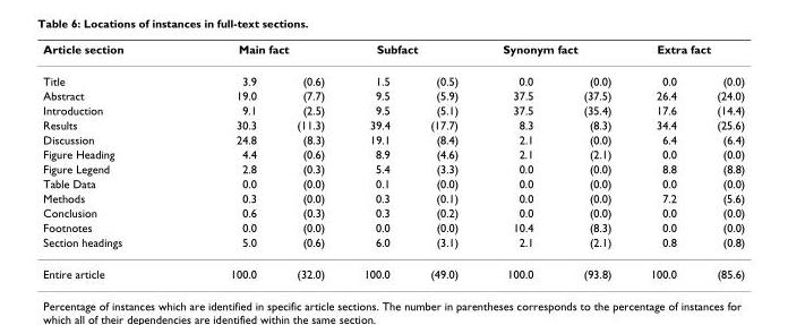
<table><thead><tr><td rowspan="2">Article section Title</td><td colspan="2">Main fact</td><td colspan="2">Subfact</td><td colspan="2">Synonym fact</td><td colspan="2">Extra fact</td></tr><tr><td>3.9</td><td>(0.6)</td><td>1.5</td><td>(0.5)</td><td>0.0</td><td>(0.0)</td><td>0.0</td><td>(0.0)</td></tr></thead><tbody><tr><td>Abstract</td><td>19.0</td><td>(7.7)</td><td>9.5</td><td>(5.9)</td><td>37.5</td><td>(37.5)</td><td>26.4</td><td>(24.0)</td></tr><tr><td>Introduction</td><td>9.1</td><td>(2.5)</td><td>9.5</td><td>(5.1)</td><td>37.5</td><td>(35.4)</td><td>17.6</td><td>(14.4)</td></tr><tr><td>Results</td><td>30.3</td><td>(11.3)</td><td>39.4</td><td>(17.7)</td><td>8.3</td><td>(8.3)</td><td>34.4</td><td>(25.6)</td></tr><tr><td>Discussion</td><td>24.8</td><td>(8.3)</td><td>19.1</td><td>(8.4)</td><td>2.1</td><td>(0.0)</td><td>6.4</td><td>(6.4)</td></tr><tr><td>Figure Heading</td><td>4.4</td><td>(0.6)</td><td>8.9</td><td>(4.6)</td><td>2.1</td><td>(2.1)</td><td>0.0</td><td>(0.0)</td></tr><tr><td>Figure Legend</td><td>2.8</td><td>(0.3)</td><td>5.4</td><td>(3.3)</td><td>0.0</td><td>(0.0)</td><td>8.8</td><td>(8.8)</td></tr><tr><td>Table Data</td><td>0.0</td><td>(0.0)</td><td>0.1</td><td>(0.0)</td><td>0.0</td><td>(0.0)</td><td>0.0</td><td>(0.0)</td></tr><tr><td>Methods</td><td>0.3</td><td>(0.0)</td><td>0.3</td><td>(0.1)</td><td>0.0</td><td>(0.0)</td><td>7.2</td><td>(5.6)</td></tr><tr><td>Conclusion</td><td>0.6</td><td>(0.3)</td><td>0.3</td><td>(0.2)</td><td>0.0</td><td>(0.0)</td><td>0.0</td><td>(0.0)</td></tr><tr><td>Footnotes</td><td>0.0</td><td>(0.0)</td><td>0.0</td><td>(0.0)</td><td>10.4</td><td>(8.3)</td><td>0.0</td><td>(0.0)</td></tr><tr><td>Section headings</td><td>5.0</td><td>(0.6)</td><td>6.0</td><td>(3.1)</td><td>2.1</td><td>(2.1)</td><td>0.8</td><td>(0.8)</td></tr><tr><td>Entire article</td><td>100.0</td><td>(32.0)</td><td>100.0</td><td>(49.0)</td><td>100.0</td><td>(93.8)</td><td>100.0</td><td>(85.6)</td></tr></tbody></table>